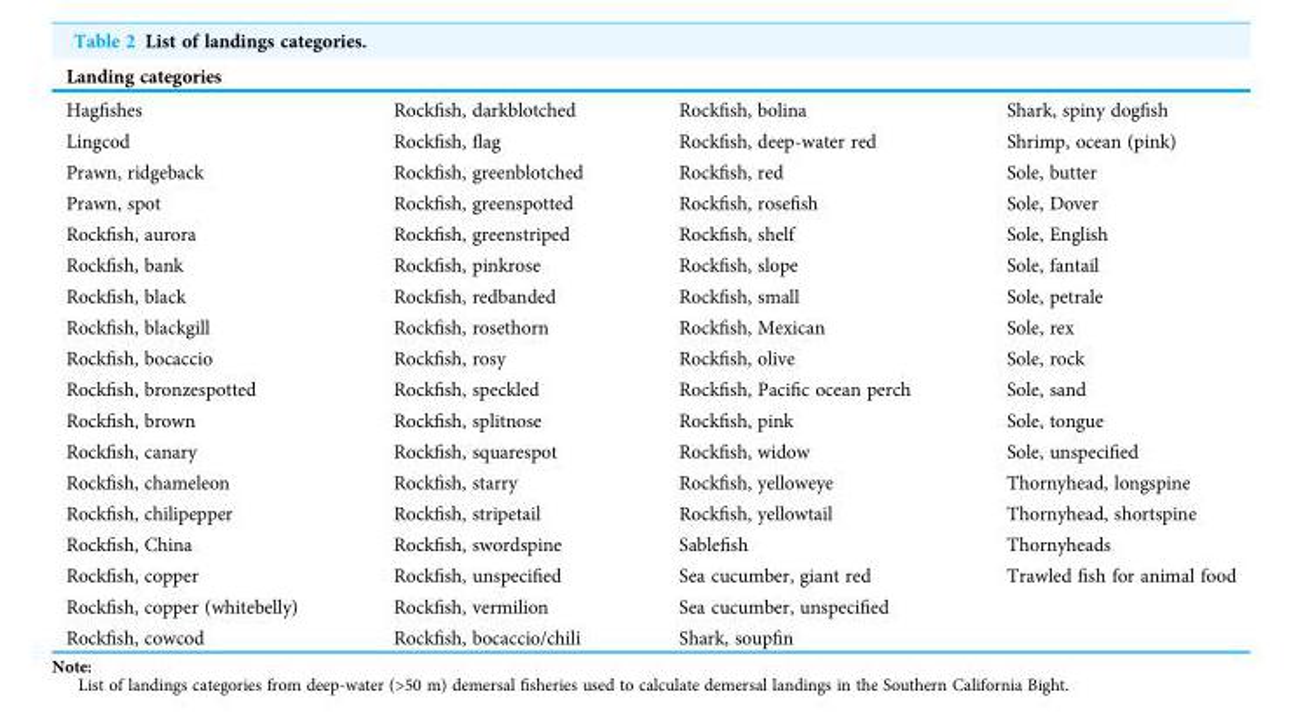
<table><thead><tr><td colspan="4">Landing categories</td></tr><tr><td>Hagfishes</td><td>Rockfish, darkblotched</td><td>Rockfish, bolina</td><td>Shark, spiny dogfish</td></tr></thead><tbody><tr><td>Lingcod</td><td>Rockfish, flag</td><td>Rockfish, deep-water red</td><td>Shrimp, ocean (pink)</td></tr><tr><td>Prawn, ridgeback</td><td>Rockfish, greenblotched</td><td>Rockfish, red</td><td>Sole, butter</td></tr><tr><td>Prawn, spot</td><td>Rockfish, greenspotted</td><td>Rockfish, rosefish</td><td>Sole, Dover</td></tr><tr><td>Rockfish, aurora</td><td>Rockfish, greenstriped</td><td>Rockfish, shelf</td><td>Sole, English</td></tr><tr><td>Rockfish, bank</td><td>Rockfish, pinkrose</td><td>Rockfish, slope</td><td>Sole, fantail</td></tr><tr><td>Rockfish, black</td><td>Rockfish, redbanded</td><td>Rockfish, small</td><td>Sole, petrale</td></tr><tr><td>Rockfish, blackgill</td><td>Rockfish, rosethorn</td><td>Rockfish, Mexican</td><td>Sole, rex</td></tr><tr><td>Rockfish, bocaccio</td><td>Rockfish, rosy</td><td>Rockfish, olive</td><td>Sole, rock</td></tr><tr><td>Rockfish, bronzespotted</td><td>Rockfish, speckled</td><td>Rockfish, Pacific ocean perch</td><td>Sole, sand</td></tr><tr><td>Rockfish, brown</td><td>Rockfish, splitnose</td><td>Rockfish, pink</td><td>Sole, tongue</td></tr><tr><td>Rockfish, canary</td><td>Rockfish, squarespot</td><td>Rockfish, widow</td><td>Sole, unspecified</td></tr><tr><td>Rockfish, chameleon</td><td>Rockfish, starry</td><td>Rockfish, yelloweye</td><td>Thornyhead, longspine</td></tr><tr><td>Rockfish, chilipepper</td><td>Rockfish, stripetail</td><td>Rockfish, yellowtail</td><td>Thornyhead, shortspine</td></tr><tr><td>Rockfish, China</td><td>Rockfish, swordspine</td><td>Sablefish</td><td>Thornyheads</td></tr><tr><td>Rockfish, copper</td><td>Rockfish, unspecified</td><td>Sea cucumber, giant red</td><td>Trawled fish for animal food</td></tr><tr><td>Rockfish, copper (whitebelly)</td><td>Rockfish, vermilion</td><td>Sea cucumber, unspecified</td><td></td></tr><tr><td>Rockfish, cowcod</td><td>Rockfish, bocaccio/chili</td><td>Shark, soupfin</td><td></td></tr></tbody></table>